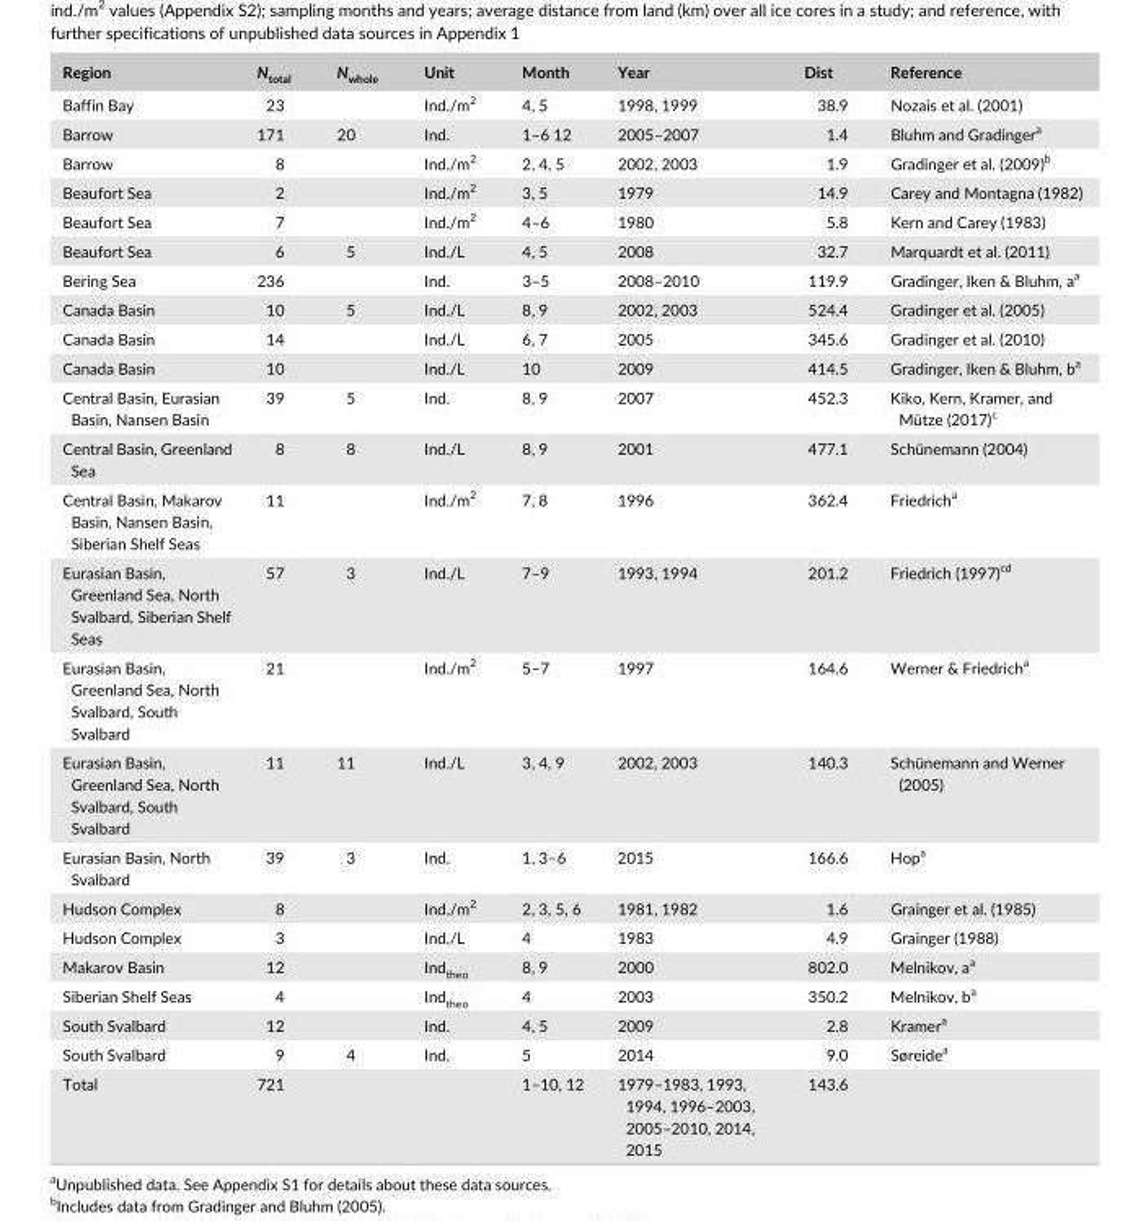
<table><thead><tr><td>Region</td><td>N<sub>total</sub></td><td>N<sub>whole</sub></td><td>Unit</td><td>Month</td><td>Year</td><td>Dist</td><td>Reference</td></tr></thead><tbody><tr><td>Baffin Bay</td><td>23</td><td></td><td>Ind./m<sup>2</sup></td><td>4, 5</td><td>1998, 1999</td><td>38.9</td><td>Nozais et al. (2001)</td></tr><tr><td>Barrow</td><td>171</td><td>20</td><td>Ind.</td><td>1–6 12</td><td>2005–2007</td><td>1.4</td><td>Bluhm and Gradinger<sup>a</sup></td></tr><tr><td>Barrow</td><td>8</td><td></td><td>Ind./m<sup>2</sup></td><td>2, 4, 5</td><td>2002, 2003</td><td>1.9</td><td>Gradinger et al. (2009)<sup>b</sup></td></tr><tr><td>Beaufort Sea</td><td>2</td><td></td><td>Ind./m<sup>2</sup></td><td>3, 5</td><td>1979</td><td>14.9</td><td>Carey and Montagna (1982)</td></tr><tr><td>Beaufort Sea</td><td>7</td><td></td><td>Ind./m<sup>2</sup></td><td>4–6</td><td>1980</td><td>5.8</td><td>Kern and Carey (1983)</td></tr><tr><td>Beaufort Sea</td><td>6</td><td>5</td><td>Ind./L</td><td>4, 5</td><td>2008</td><td>32.7</td><td>Marquardt et al. (2011)</td></tr><tr><td>Bering Sea</td><td>236</td><td></td><td>Ind.</td><td>3–5</td><td>2008–2010</td><td>119.9</td><td>Gradinger, Iken &amp; Bluhm, a<sup>a</sup></td></tr><tr><td>Canada Basin</td><td>10</td><td>5</td><td>Ind./L</td><td>8, 9</td><td>2002, 2003</td><td>524.4</td><td>Gradinger et al. (2005)</td></tr><tr><td>Canada Basin</td><td>14</td><td></td><td>Ind./L</td><td>6, 7</td><td>2005</td><td>345.6</td><td>Gradinger et al. (2010)</td></tr><tr><td>Canada Basin</td><td>10</td><td></td><td>Ind./L</td><td>10</td><td>2009</td><td>414.5</td><td>Gradinger, Iken &amp; Bluhm, b<sup>a</sup></td></tr><tr><td>Central Basin, Eurasian Basin, Nansen Basin</td><td>39</td><td>5</td><td>Ind.</td><td>8, 9</td><td>2007</td><td>452.3</td><td>Kiko, Kern, Kramer, and Mütze (2017)<sup>c</sup></td></tr><tr><td>Central Basin, Greenland Sea</td><td>8</td><td>8</td><td>Ind./L</td><td>8, 9</td><td>2001</td><td>477.1</td><td>Schünemann (2004)</td></tr><tr><td>Central Basin, Makarov Basin, Nansen Basin, Siberian Shelf Seas</td><td>11</td><td></td><td>Ind./m<sup>2</sup></td><td>7, 8</td><td>1996</td><td>362.4</td><td>Friedrich<sup>a</sup></td></tr><tr><td>Eurasian Basin, Greenland Sea, North Svalbard, Siberian Shelf Seas</td><td>57</td><td>3</td><td>Ind./L</td><td>7–9</td><td>1993, 1994</td><td>201.2</td><td>Friedrich (1997)cd</td></tr><tr><td>Eurasian Basin, Greenland Sea, North Svalbard, South Svalbard</td><td>21</td><td></td><td>Ind./m<sup>2</sup></td><td>5–7</td><td>1997</td><td>164.6</td><td>Werner &amp; Friedrich<sup>a</sup></td></tr><tr><td>Eurasian Basin, Greenland Sea, North Svalbard, South Svalbard</td><td>11</td><td>11</td><td>Ind./L</td><td>3, 4, 9</td><td>2002, 2003</td><td>140.3</td><td>Schünemann and Werner (2005)</td></tr><tr><td>Eurasian Basin, North Svalbard</td><td>39</td><td>3</td><td>Ind.</td><td>1, 3–6</td><td>2015</td><td>166.6</td><td>Hop<sup>a</sup></td></tr><tr><td>Hudson Complex</td><td>8</td><td></td><td>Ind./m<sup>2</sup></td><td>2, 3, 5, 6</td><td>1981, 1982</td><td>1.6</td><td>Grainger et al. (1985)</td></tr><tr><td>Hudson Complex</td><td>3</td><td></td><td>Ind./L</td><td>4</td><td>1983</td><td>4.9</td><td>Grainger (1988)</td></tr><tr><td>Makarov Basin</td><td>12</td><td></td><td>Ind<sub>theo</sub></td><td>8, 9</td><td>2000</td><td>802.0</td><td>Melnikov, a<sup>a</sup></td></tr><tr><td>Siberian Shelf Seas</td><td>4</td><td></td><td>Ind<sub>theo</sub></td><td>4</td><td>2003</td><td>350.2</td><td>Melnikov, b<sup>a</sup></td></tr><tr><td>South Svalbard</td><td>12</td><td></td><td>Ind.</td><td>4, 5</td><td>2009</td><td>2.8</td><td>Kramer<sup>a</sup></td></tr><tr><td>South Svalbard</td><td>9</td><td>4</td><td>Ind.</td><td>5</td><td>2014</td><td>9.0</td><td>Søreide<sup>a</sup></td></tr><tr><td>Total</td><td>721</td><td></td><td></td><td>1–10, 12</td><td>1979–1983, 1993, 1994, 1996–2003, 2005–2010, 2014, 2015</td><td>143.6</td><td></td></tr></tbody></table>